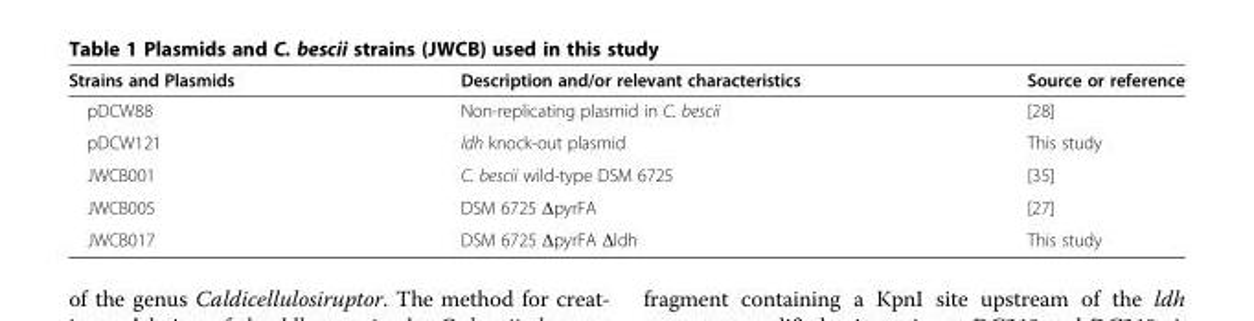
<table><thead><tr><td>Strains and Plasmids</td><td>Description and/or relevant characteristics</td><td>Source or reference</td></tr></thead><tbody><tr><td>pDCW88</td><td>Non-replicating plasmid in C. bescii</td><td>[28]</td></tr><tr><td>pDCW121</td><td>ldh knock-out plasmid</td><td>This study</td></tr><tr><td>JWCB001</td><td>C. bescii wild-type DSM 6725</td><td>[35]</td></tr><tr><td>JWCB005</td><td>DSM 6725 ΔpyrFA</td><td>[27]</td></tr><tr><td>JWCB017</td><td>DSM 6725 ΔpyrFA Δldh</td><td>This study</td></tr></tbody></table>